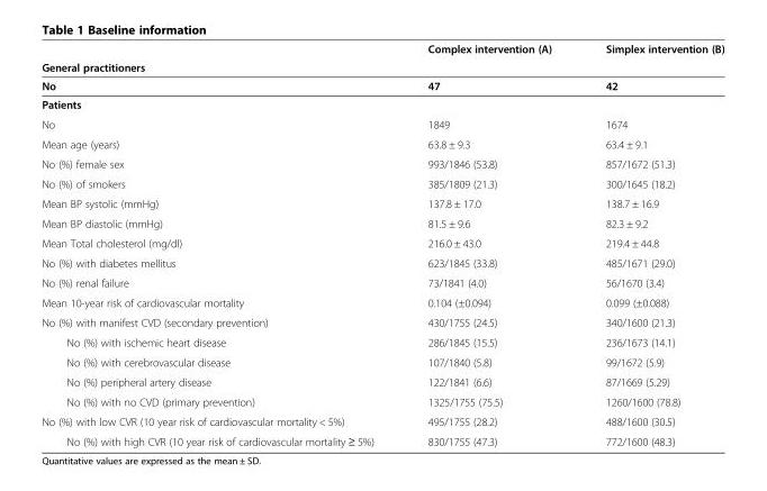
<table><thead><tr><td></td><td>Complex intervention (A)</td><td>Simplex intervention (B)</td></tr><tr><td colspan="3">General practitioners</td></tr><tr><td>No</td><td>47</td><td>42</td></tr></thead><tbody><tr><td colspan="3">Patients</td></tr><tr><td>No</td><td>1849</td><td>1674</td></tr><tr><td>Mean age (years)</td><td>63.8 ± 9.3</td><td>63.4 ± 9.1</td></tr><tr><td>No (%) female sex</td><td>993/1846 (53.8)</td><td>857/1672 (51.3)</td></tr><tr><td>No (%) of smokers</td><td>385/1809 (21.3)</td><td>300/1645 (18.2)</td></tr><tr><td>Mean BP systolic (mmHg)</td><td>137.8 ± 17.0</td><td>138.7 ± 16.9</td></tr><tr><td>Mean BP diastolic (mmHg)</td><td>81.5 ± 9.6</td><td>82.3 ± 9.2</td></tr><tr><td>Mean Total cholesterol (mg/dl)</td><td>216.0 ± 43.0</td><td>219.4 ± 44.8</td></tr><tr><td>No (%) with diabetes mellitus</td><td>623/1845 (33.8)</td><td>485/1671 (29.0)</td></tr><tr><td>No (%) renal failure</td><td>73/1841 (4.0)</td><td>56/1670 (3.4)</td></tr><tr><td>Mean 10-year risk of cardiovascular mortality</td><td>0.104 (±0.094)</td><td>0.099 (±0.088)</td></tr><tr><td>No (%) with manifest CVD (secondary prevention)</td><td>430/1755 (24.5)</td><td>340/1600 (21.3)</td></tr><tr><td>No (%) with ischemic heart disease</td><td>286/1845 (15.5)</td><td>236/1673 (14.1)</td></tr><tr><td>No (%) with cerebrovascular disease</td><td>107/1840 (5.8)</td><td>99/1672 (5.9)</td></tr><tr><td>No (%) peripheral artery disease</td><td>122/1841 (6.6)</td><td>87/1669 (5.29)</td></tr><tr><td>No (%) with no CVD (primary prevention)</td><td>1325/1755 (75.5)</td><td>1260/1600 (78.8)</td></tr><tr><td>No (%) with low CVR (10 year risk of cardiovascular mortality &lt; 5%)</td><td>495/1755 (28.2)</td><td>488/1600 (30.5)</td></tr><tr><td>No (%) with high CVR (10 year risk of cardiovascular mortality ≥ 5%)</td><td>830/1755 (47.3)</td><td>772/1600 (48.3)</td></tr></tbody></table>